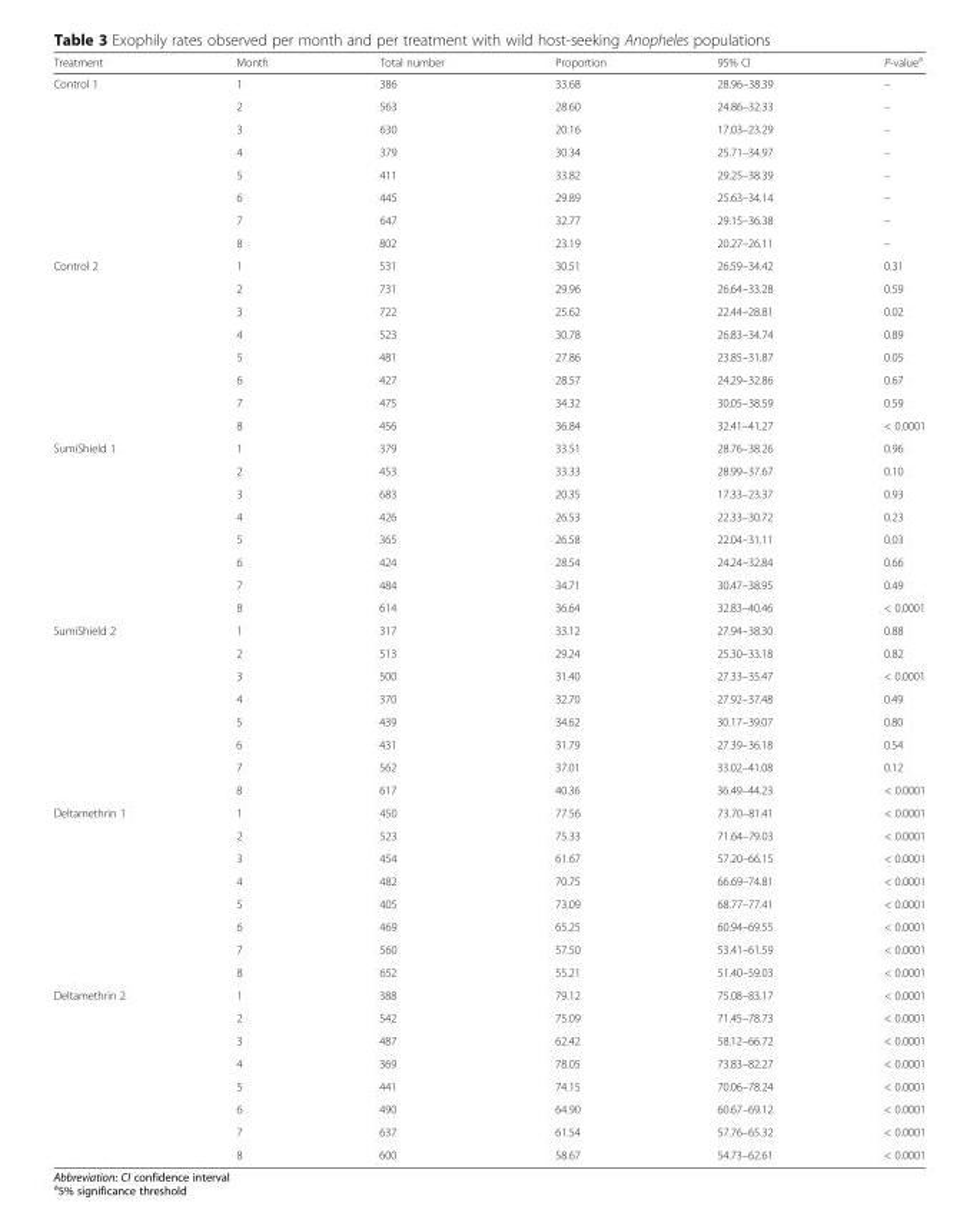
<table><thead><tr><td>Treatment</td><td>Month</td><td>Total number</td><td>Proportion</td><td>95% CI</td><td>P-value<sup>a</sup></td></tr></thead><tbody><tr><td rowspan="8">Control 1</td><td>1</td><td>386</td><td>33.68</td><td>28.96–38.39</td><td>–</td></tr><tr><td>2</td><td>563</td><td>28.60</td><td>24.86–32.33</td><td>–</td></tr><tr><td>3</td><td>630</td><td>20.16</td><td>17.03–23.29</td><td>–</td></tr><tr><td>4</td><td>379</td><td>30.34</td><td>25.71–34.97</td><td>–</td></tr><tr><td>5</td><td>411</td><td>33.82</td><td>29.25–38.39</td><td>–</td></tr><tr><td>6</td><td>445</td><td>29.89</td><td>25.63–34.14</td><td>–</td></tr><tr><td>7</td><td>647</td><td>32.77</td><td>29.15–36.38</td><td>–</td></tr><tr><td>8</td><td>802</td><td>23.19</td><td>20.27–26.11</td><td>–</td></tr><tr><td rowspan="8">Control 2</td><td>1</td><td>531</td><td>30.51</td><td>26.59–34.42</td><td>0.31</td></tr><tr><td>2</td><td>731</td><td>29.96</td><td>26.64–33.28</td><td>0.59</td></tr><tr><td>3</td><td>722</td><td>25.62</td><td>22.44–28.81</td><td>0.02</td></tr><tr><td>4</td><td>523</td><td>30.78</td><td>26.83–34.74</td><td>0.89</td></tr><tr><td>5</td><td>481</td><td>27.86</td><td>23.85–31.87</td><td>0.05</td></tr><tr><td>6</td><td>427</td><td>28.57</td><td>24.29–32.86</td><td>0.67</td></tr><tr><td>7</td><td>475</td><td>34.32</td><td>30.05–38.59</td><td>0.59</td></tr><tr><td>8</td><td>456</td><td>36.84</td><td>32.41–41.27</td><td>&lt; 0.0001</td></tr><tr><td rowspan="8">SumiShield 1</td><td>1</td><td>379</td><td>33.51</td><td>28.76–38.26</td><td>0.96</td></tr><tr><td>2</td><td>453</td><td>33.33</td><td>28.99–37.67</td><td>0.10</td></tr><tr><td>3</td><td>683</td><td>20.35</td><td>17.33–23.37</td><td>0.93</td></tr><tr><td>4</td><td>426</td><td>26.53</td><td>22.33–30.72</td><td>0.23</td></tr><tr><td>5</td><td>365</td><td>26.58</td><td>22.04–31.11</td><td>0.03</td></tr><tr><td>6</td><td>424</td><td>28.54</td><td>24.24–32.84</td><td>0.66</td></tr><tr><td>7</td><td>484</td><td>34.71</td><td>30.47–38.95</td><td>0.49</td></tr><tr><td>8</td><td>614</td><td>36.64</td><td>32.83–40.46</td><td>&lt; 0.0001</td></tr><tr><td rowspan="8">SumiShield 2</td><td>1</td><td>317</td><td>33.12</td><td>27.94–38.30</td><td>0.88</td></tr><tr><td>2</td><td>513</td><td>29.24</td><td>25.30–33.18</td><td>0.82</td></tr><tr><td>3</td><td>500</td><td>31.40</td><td>27.33–35.47</td><td>&lt; 0.0001</td></tr><tr><td>4</td><td>370</td><td>32.70</td><td>27.92–37.48</td><td>0.49</td></tr><tr><td>5</td><td>439</td><td>34.62</td><td>30.17–39.07</td><td>0.80</td></tr><tr><td>6</td><td>431</td><td>31.79</td><td>27.39–36.18</td><td>0.54</td></tr><tr><td>7</td><td>562</td><td>37.01</td><td>33.02–41.08</td><td>0.12</td></tr><tr><td>8</td><td>617</td><td>40.36</td><td>36.49–44.23</td><td>&lt; 0.0001</td></tr><tr><td rowspan="8">Deltamethrin 1</td><td>1</td><td>450</td><td>77.56</td><td>73.70–81.41</td><td>&lt; 0.0001</td></tr><tr><td>2</td><td>523</td><td>75.33</td><td>71.64–79.03</td><td>&lt; 0.0001</td></tr><tr><td>3</td><td>454</td><td>61.67</td><td>57.20–66.15</td><td>&lt; 0.0001</td></tr><tr><td>4</td><td>482</td><td>70.75</td><td>66.69–74.81</td><td>&lt; 0.0001</td></tr><tr><td>5</td><td>405</td><td>73.09</td><td>68.77–77.41</td><td>&lt; 0.0001</td></tr><tr><td>6</td><td>469</td><td>65.25</td><td>60.94–69.55</td><td>&lt; 0.0001</td></tr><tr><td>7</td><td>560</td><td>57.50</td><td>53.41–61.59</td><td>&lt; 0.0001</td></tr><tr><td>8</td><td>652</td><td>55.21</td><td>51.40–59.03</td><td>&lt; 0.0001</td></tr><tr><td rowspan="8">Deltamethrin 2</td><td>1</td><td>388</td><td>79.12</td><td>75.08–83.17</td><td>&lt; 0.0001</td></tr><tr><td>2</td><td>542</td><td>75.09</td><td>71.45–78.73</td><td>&lt; 0.0001</td></tr><tr><td>3</td><td>487</td><td>62.42</td><td>58.12–66.72</td><td>&lt; 0.0001</td></tr><tr><td>4</td><td>369</td><td>78.05</td><td>73.83–82.27</td><td>&lt; 0.0001</td></tr><tr><td>5</td><td>441</td><td>74.15</td><td>70.06–78.24</td><td>&lt; 0.0001</td></tr><tr><td>6</td><td>490</td><td>64.90</td><td>60.67–69.12</td><td>&lt; 0.0001</td></tr><tr><td>7</td><td>637</td><td>61.54</td><td>57.76–65.32</td><td>&lt; 0.0001</td></tr><tr><td>8</td><td>600</td><td>58.67</td><td>54.73–62.61</td><td>&lt; 0.0001</td></tr></tbody></table>